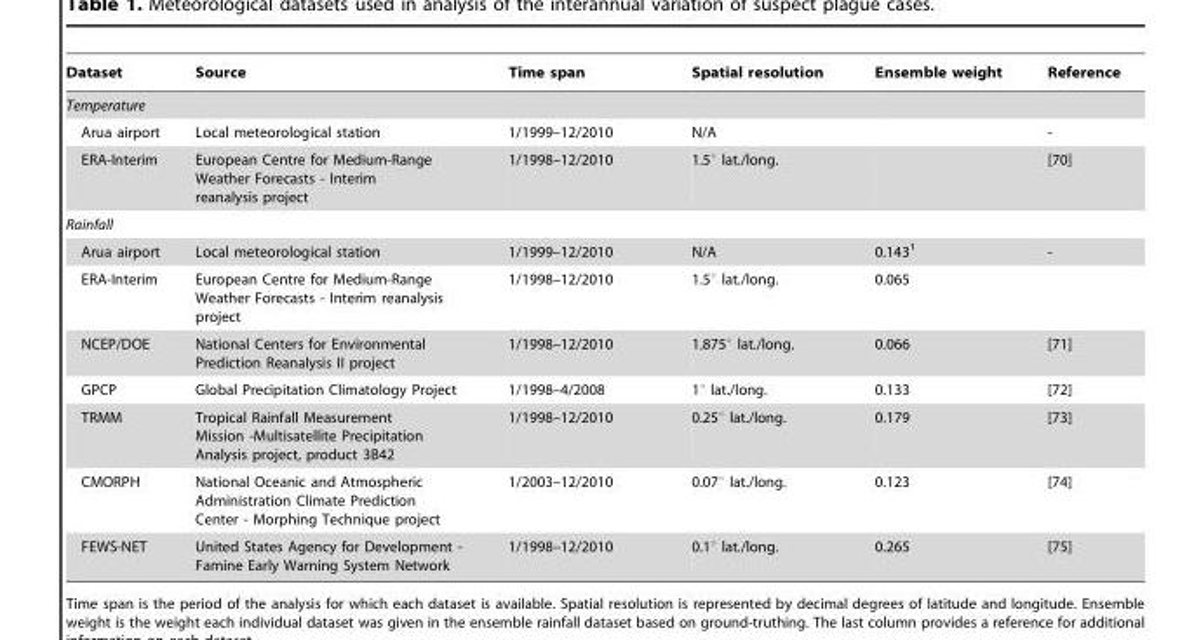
<table><thead><tr><td>Dataset</td><td>Source</td><td>Time span</td><td>Spatial resolution</td><td>Ensemble weight</td><td>Reference</td></tr></thead><tbody><tr><td colspan="6">Temperature</td></tr><tr><td>Arua airport</td><td>Local meteorological station</td><td>1/1999–12/2010</td><td>N/A</td><td></td><td>-</td></tr><tr><td>ERA-Interim</td><td>European Centre for Medium-Range Weather Forecasts - Interim reanalysis project</td><td>1/1998–12/2010</td><td>1.5° lat./long.</td><td></td><td>[70]</td></tr><tr><td colspan="6">Rainfall</td></tr><tr><td>Arua airport</td><td>Local meteorological station</td><td>1/1999–12/2010</td><td>N/A</td><td>0.143<sup>1</sup></td><td>-</td></tr><tr><td>ERA-Interim</td><td>European Centre for Medium-Range Weather Forecasts - Interim reanalysis project</td><td>1/1998–12/2010</td><td>1.5° lat./long.</td><td>0.065</td><td></td></tr><tr><td>NCEP/DOE</td><td>National Centers for Environmental Prediction Reanalysis II project</td><td>1/1998–12/2010</td><td>1.875° lat./long.</td><td>0.066</td><td>[71]</td></tr><tr><td>GPCP</td><td>Global Precipitation Climatology Project</td><td>1/1998–4/2008</td><td>1° lat./long.</td><td>0.133</td><td>[72]</td></tr><tr><td>TRMM</td><td>Tropical Rainfall Measurement Mission -Multisatellite Precipitation Analysis project, product 3B42</td><td>1/1998–12/2010</td><td>0.25° lat./long.</td><td>0.179</td><td>[73]</td></tr><tr><td>CMORPH</td><td>National Oceanic and Atmospheric Administration Climate Prediction Center - Morphing Technique project</td><td>1/2003–12/2010</td><td>0.07° lat./long.</td><td>0.123</td><td>[74]</td></tr><tr><td>FEWS-NET</td><td>United States Agency for Development - Famine Early Warning System Network</td><td>1/1998–12/2010</td><td>0.1° lat./long.</td><td>0.265</td><td>[75]</td></tr></tbody></table>